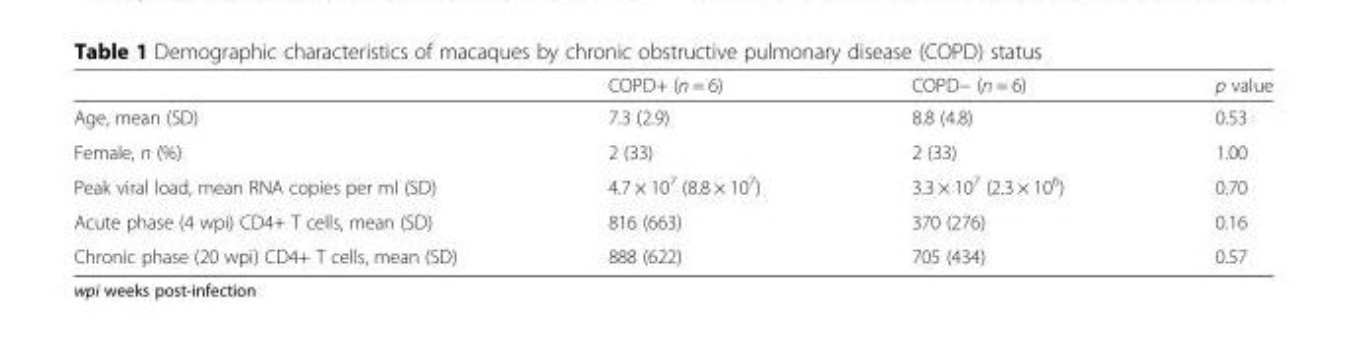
<table><thead><tr><td></td><td>COPD+ (n = 6)</td><td>COPD− (n = 6)</td><td>p value</td></tr></thead><tbody><tr><td>Age, mean (SD)</td><td>7.3 (2.9)</td><td>8.8 (4.8)</td><td>0.53</td></tr><tr><td>Female, n (%)</td><td>2 (33)</td><td>2 (33)</td><td>1.00</td></tr><tr><td>Peak viral load, mean RNA copies per ml (SD)</td><td>4.7 × 10<sup>7</sup> (8.8 × 10<sup>7</sup>)</td><td>3.3 × 10<sup>7</sup> (2.3 × 10<sup>6</sup>)</td><td>0.70</td></tr><tr><td>Acute phase (4 wpi) CD4+ T cells, mean (SD)</td><td>816 (663)</td><td>370 (276)</td><td>0.16</td></tr><tr><td>Chronic phase (20 wpi) CD4+ T cells, mean (SD)</td><td>888 (622)</td><td>705 (434)</td><td>0.57</td></tr></tbody></table>